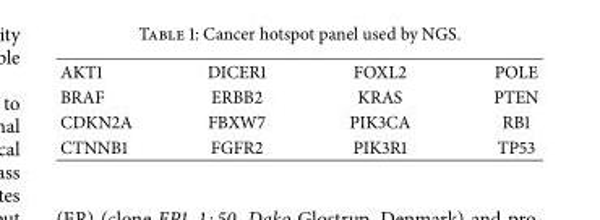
<table><tbody><tr><td>AKT1</td><td>DICER1</td><td>FOXL2</td><td>POLE</td></tr><tr><td>BRAF</td><td>ERBB2</td><td>KRAS</td><td>PTEN</td></tr><tr><td>CDKN2A</td><td>FBXW7</td><td>PIK3CA</td><td>RB1</td></tr><tr><td>CTNNB1</td><td>FGFR2</td><td>PIK3R1</td><td>TP53</td></tr></tbody></table>